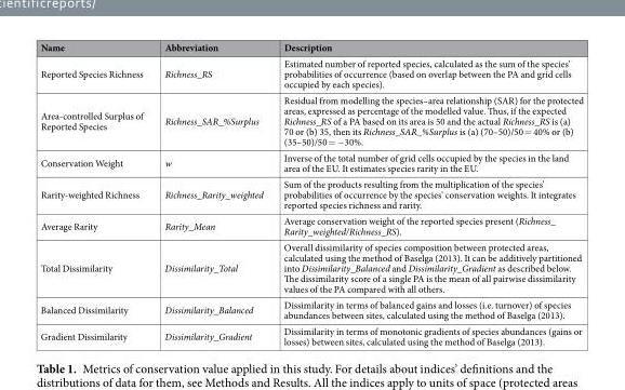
<table><thead><tr><td>Name</td><td>Abbreviation</td><td>Description</td></tr></thead><tbody><tr><td>Reported Species Richness</td><td>Richness_RS</td><td>Estimated number of reported species, calculated as the sum of the species’ probabilities of occurrence (based on overlap between the PA and grid cells occupied by each species).</td></tr><tr><td>Area-controlled Surplus of Reported Species</td><td>Richness_SAR_%Surplus</td><td>Residual from modelling the species–area relationship (SAR) for the protected areas, expressed as percentage of the modelled value. Thus, if the expected Richness_RS of a PA based on its area is 50 and the actual Richness_RS is (a) 70 or (b) 35, then its Richness_SAR_%Surplus is (a) (70–50)/50 = 40% or (b) (35–50)/50 = −30%.</td></tr><tr><td>Conservation Weight</td><td>w</td><td>Inverse of the total number of grid cells occupied by the species in the land area of the EU. It estimates species rarity in the EU.</td></tr><tr><td>Rarity-weighted Richness</td><td>Richness_Rarity_weighted</td><td>Sum of the products resulting from the multiplication of the species’ probabilities of occurrence by the species’ conservation weights. It integrates reported species richness and rarity.</td></tr><tr><td>Average Rarity</td><td>Rarity_Mean</td><td>Average conservation weight of the reported species present (Richness_ Rarity_weighted/Richness_RS).</td></tr><tr><td>Total Dissimilarity</td><td>Dissimilarity_Total</td><td>Overall dissimilarity of species composition between protected areas, calculated using the method of Baselga (2013). It can be additively partitioned into Dissimilarity_Balanced and Dissimilarity_Gradient as described below. The dissimilarity score of a single PA is the mean of all pairwise dissimilarity values of the PA compared with all others.</td></tr><tr><td>Balanced Dissimilarity</td><td>Dissimilarity_Balanced</td><td>Dissimilarity in terms of balanced gains and losses (i.e. turnover) of species abundances between sites, calculated using the method of Baselga (2013).</td></tr><tr><td>Gradient Dissimilarity</td><td>Dissimilarity_Gradient</td><td>Dissimilarity in terms of monotonic gradients of species abundances (gains or losses) between sites, calculated using the method of Baselga (2013).</td></tr></tbody></table>